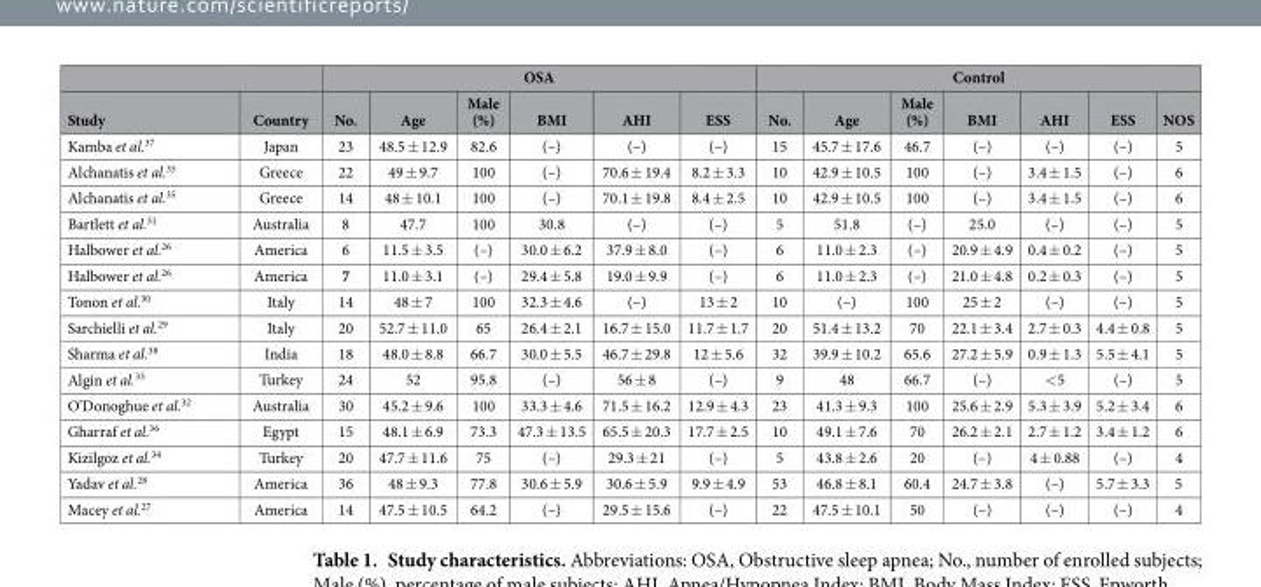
<table><thead><tr><td rowspan="2">Study</td><td rowspan="2">Country</td><td colspan="6">OSA</td><td colspan="7">Control</td></tr><tr><td>No.</td><td>Age</td><td>Male (%)</td><td>BMI</td><td>AHI</td><td>ESS</td><td>No.</td><td>Age</td><td>Male (%)</td><td>BMI</td><td>AHI</td><td>ESS</td><td>NOS</td></tr></thead><tbody><tr><td>Kamba et al.<sup>37</sup></td><td>Japan</td><td>23</td><td>48.5 ± 12.9</td><td>82.6</td><td>(–)</td><td>(–)</td><td>(–)</td><td>15</td><td>45.7 ± 17.6</td><td>46.7</td><td>(–)</td><td>(–)</td><td>(–)</td><td>5</td></tr><tr><td>Alchanatis et al.<sup>35</sup></td><td>Greece</td><td>22</td><td>49 ± 9.7</td><td>100</td><td>(–)</td><td>70.6 ± 19.4</td><td>8.2 ± 3.3</td><td>10</td><td>42.9 ± 10.5</td><td>100</td><td>(–)</td><td>3.4 ± 1.5</td><td>(–)</td><td>6</td></tr><tr><td>Alchanatis et al.<sup>35</sup></td><td>Greece</td><td>14</td><td>48 ± 10.1</td><td>100</td><td>(–)</td><td>70.1 ± 19.8</td><td>8.4 ± 2.5</td><td>10</td><td>42.9 ± 10.5</td><td>100</td><td>(–)</td><td>3.4 ± 1.5</td><td>(–)</td><td>6</td></tr><tr><td>Bartlett et al.<sup>31</sup></td><td>Australia</td><td>8</td><td>47.7</td><td>100</td><td>30.8</td><td>(–)</td><td>(–)</td><td>5</td><td>51.8</td><td>(–)</td><td>25.0</td><td>(–)</td><td>(–)</td><td>5</td></tr><tr><td>Halbower et al.<sup>26</sup></td><td>America</td><td>6</td><td>11.5 ± 3.5</td><td>(–)</td><td>30.0 ± 6.2</td><td>37.9 ± 8.0</td><td>(–)</td><td>6</td><td>11.0 ± 2.3</td><td>(–)</td><td>20.9 ± 4.9</td><td>0.4 ± 0.2</td><td>(–)</td><td>5</td></tr><tr><td>Halbower et al.<sup>26</sup></td><td>America</td><td>7</td><td>11.0 ± 3.1</td><td>(–)</td><td>29.4 ± 5.8</td><td>19.0 ± 9.9</td><td>(–)</td><td>6</td><td>11.0 ± 2.3</td><td>(–)</td><td>21.0 ± 4.8</td><td>0.2 ± 0.3</td><td>(–)</td><td>5</td></tr><tr><td>Tonon et al.<sup>30</sup></td><td>Italy</td><td>14</td><td>48 ± 7</td><td>100</td><td>32.3 ± 4.6</td><td>(–)</td><td>13 ± 2</td><td>10</td><td>(–)</td><td>100</td><td>25 ± 2</td><td>(–)</td><td>(–)</td><td>5</td></tr><tr><td>Sarchielli et al.<sup>29</sup></td><td>Italy</td><td>20</td><td>52.7 ± 11.0</td><td>65</td><td>26.4 ± 2.1</td><td>16.7 ± 15.0</td><td>11.7 ± 1.7</td><td>20</td><td>51.4 ± 13.2</td><td>70</td><td>22.1 ± 3.4</td><td>2.7 ± 0.3</td><td>4.4 ± 0.8</td><td>5</td></tr><tr><td>Sharma et al.<sup>38</sup></td><td>India</td><td>18</td><td>48.0 ± 8.8</td><td>66.7</td><td>30.0 ± 5.5</td><td>46.7 ± 29.8</td><td>12 ± 5.6</td><td>32</td><td>39.9 ± 10.2</td><td>65.6</td><td>27.2 ± 5.9</td><td>0.9 ± 1.3</td><td>5.5 ± 4.1</td><td>5</td></tr><tr><td>Algin et al.<sup>33</sup></td><td>Turkey</td><td>24</td><td>52</td><td>95.8</td><td>(–)</td><td>56 ± 8</td><td>(–)</td><td>9</td><td>48</td><td>66.7</td><td>(–)</td><td>&lt; 5</td><td>(–)</td><td>5</td></tr><tr><td>O’Donoghue et al.<sup>32</sup></td><td>Australia</td><td>30</td><td>45.2 ± 9.6</td><td>100</td><td>33.3 ± 4.6</td><td>71.5 ± 16.2</td><td>12.9 ± 4.3</td><td>23</td><td>41.3 ± 9.3</td><td>100</td><td>25.6 ± 2.9</td><td>5.3 ± 3.9</td><td>5.2 ± 3.4</td><td>6</td></tr><tr><td>Gharraf et al.<sup>36</sup></td><td>Egypt</td><td>15</td><td>48.1 ± 6.9</td><td>73.3</td><td>47.3 ± 13.5</td><td>65.5 ± 20.3</td><td>17.7 ± 2.5</td><td>10</td><td>49.1 ± 7.6</td><td>70</td><td>26.2 ± 2.1</td><td>2.7 ± 1.2</td><td>3.4 ± 1.2</td><td>6</td></tr><tr><td>Kizilgoz et al.<sup>34</sup></td><td>Turkey</td><td>20</td><td>47.7 ± 11.6</td><td>75</td><td>(–)</td><td>29.3 ± 21</td><td>(–)</td><td>5</td><td>43.8 ± 2.6</td><td>20</td><td>(–)</td><td>4 ± 0.88</td><td>(–)</td><td>4</td></tr><tr><td>Yadav et al.<sup>28</sup></td><td>America</td><td>36</td><td>48 ± 9.3</td><td>77.8</td><td>30.6 ± 5.9</td><td>30.6 ± 5.9</td><td>9.9 ± 4.9</td><td>53</td><td>46.8 ± 8.1</td><td>60.4</td><td>24.7 ± 3.8</td><td>(–)</td><td>5.7 ± 3.3</td><td>5</td></tr><tr><td>Macey et al.<sup>27</sup></td><td>America</td><td>14</td><td>47.5 ± 10.5</td><td>64.2</td><td>(–)</td><td>29.5 ± 15.6</td><td>(–)</td><td>22</td><td>47.5 ± 10.1</td><td>50</td><td>(–)</td><td>(–)</td><td>(–)</td><td>4</td></tr></tbody></table>